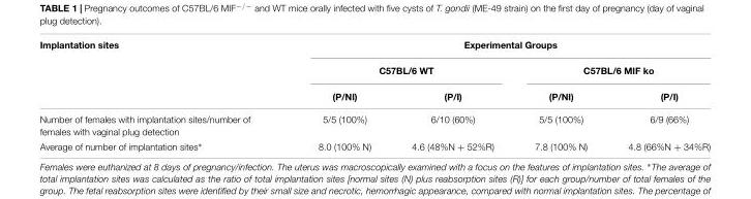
<table><thead><tr><td rowspan="3">Implantation sites</td><td colspan="4">Experimental Groups</td></tr><tr><td colspan="2">C57BL/6 WT</td><td colspan="2">C57BL/6 MIF ko</td></tr><tr><td>(P/NI)</td><td>(P/I)</td><td>(P/NI)</td><td>(P/I)</td></tr></thead><tbody><tr><td>Number of females with implantation sites/number of females with vaginal plug detection</td><td>5/5 (100%)</td><td>6/10 (60%)</td><td>5/5 (100%)</td><td>6/9 (66%)</td></tr><tr><td>Average of number of implantation sites∗</td><td>8.0 (100% N)</td><td>4.6 (48%N + 52%R)</td><td>7.8 (100% N)</td><td>4.8 (66%N + 34%R)</td></tr></tbody></table>